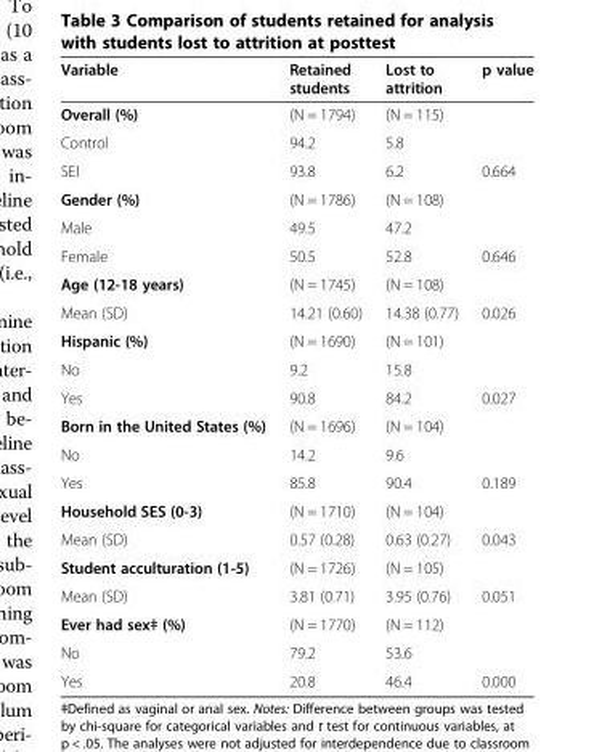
<table><thead><tr><td>Variable</td><td>Retained students</td><td>Lost to attrition</td><td>p value</td></tr></thead><tbody><tr><td>Overall (%)</td><td>(N = 1794)</td><td>(N = 115)</td><td></td></tr><tr><td>Control</td><td>94.2</td><td>5.8</td><td></td></tr><tr><td>SEI</td><td>93.8</td><td>6.2</td><td>0.664</td></tr><tr><td>Gender (%)</td><td>(N = 1786)</td><td>(N = 108)</td><td></td></tr><tr><td>Male</td><td>49.5</td><td>47.2</td><td></td></tr><tr><td>Female</td><td>50.5</td><td>52.8</td><td>0.646</td></tr><tr><td>Age (12-18 years)</td><td>(N = 1745)</td><td>(N = 108)</td><td></td></tr><tr><td>Mean (SD)</td><td>14.21 (0.60)</td><td>14.38 (0.77)</td><td>0.026</td></tr><tr><td>Hispanic (%)</td><td>(N = 1690)</td><td>(N = 101)</td><td></td></tr><tr><td>No</td><td>9.2</td><td>15.8</td><td></td></tr><tr><td>Yes</td><td>90.8</td><td>84.2</td><td>0.027</td></tr><tr><td>Born in the United States (%)</td><td>(N = 1696)</td><td>(N = 104)</td><td></td></tr><tr><td>No</td><td>14.2</td><td>9.6</td><td></td></tr><tr><td>Yes</td><td>85.8</td><td>90.4</td><td>0.189</td></tr><tr><td>Household SES (0-3)</td><td>(N = 1710)</td><td>(N = 104)</td><td></td></tr><tr><td>Mean (SD)</td><td>0.57 (0.28)</td><td>0.63 (0.27)</td><td>0.043</td></tr><tr><td>Student acculturation (1-5)</td><td>(N = 1726)</td><td>(N = 105)</td><td></td></tr><tr><td>Mean (SD)</td><td>3.81 (0.71)</td><td>3.95 (0.76)</td><td>0.051</td></tr><tr><td>Ever had sexǂ (%)</td><td>(N = 1770)</td><td>(N = 112)</td><td></td></tr><tr><td>No</td><td>79.2</td><td>53.6</td><td></td></tr><tr><td>Yes</td><td>20.8</td><td>46.4</td><td>0.000</td></tr></tbody></table>